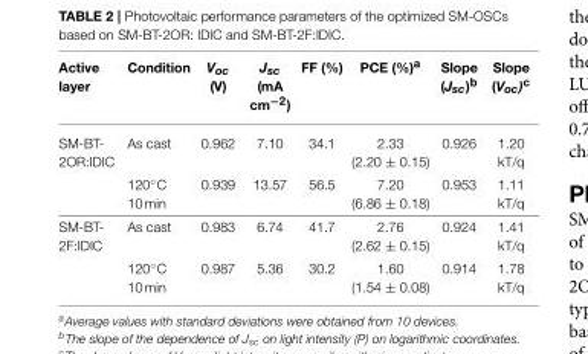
<table><thead><tr><td>Active layer</td><td>Condition</td><td>Voc (V)</td><td>Jsc (mA cm−2)</td><td>FF (%)</td><td>PCE (%)<sup>a</sup></td><td>Slope (Jsc)b</td><td>Slope (Voc)c</td></tr></thead><tbody><tr><td rowspan="2">SM-BT- 2OR:IDIC</td><td>As cast</td><td>0.962</td><td>7.10</td><td>34.1</td><td>2.33 (2.20 ± 0.15)</td><td>0.926</td><td>1.20 kT/q</td></tr><tr><td>120◦C 10 min</td><td>0.939</td><td>13.57</td><td>56.5</td><td>7.20 (6.86 ± 0.18)</td><td>0.953</td><td>1.11 kT/q</td></tr><tr><td rowspan="2">SM-BT- 2F:IDIC</td><td>As cast</td><td>0.983</td><td>6.74</td><td>41.7</td><td>2.76 (2.62 ± 0.15)</td><td>0.924</td><td>1.41 kT/q</td></tr><tr><td>120◦C 10 min</td><td>0.987</td><td>5.36</td><td>30.2</td><td>1.60 (1.54 ± 0.08)</td><td>0.914</td><td>1.78 kT/q</td></tr></tbody></table>